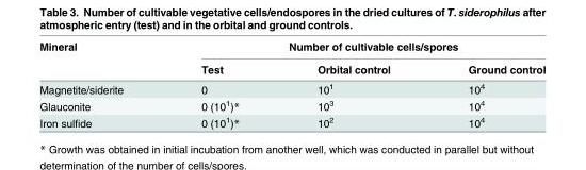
<table><thead><tr><td rowspan="2">Mineral</td><td colspan="3">Number of cultivable cells/spores</td></tr><tr><td>Test</td><td>Orbital control</td><td>Ground control</td></tr></thead><tbody><tr><td>Magnetite/siderite</td><td>0</td><td>10<sup>1</sup></td><td>10<sup>4</sup></td></tr><tr><td>Glauconite</td><td>0 (10<sup>1</sup>)*</td><td>10<sup>3</sup></td><td>10<sup>4</sup></td></tr><tr><td>Iron sulfide</td><td>0 (10<sup>1</sup>)*</td><td>10<sup>2</sup></td><td>10<sup>4</sup></td></tr></tbody></table>